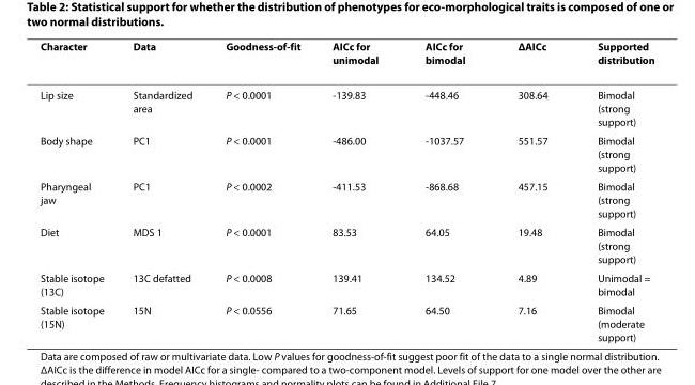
<table><thead><tr><td>Character</td><td>Data</td><td>Goodness-of-fit</td><td>AICc for unimodal</td><td>AICc for bimodal</td><td>ΔAICc</td><td>Supported distribution</td></tr></thead><tbody><tr><td>Lip size</td><td>Standardized area</td><td>P &lt; 0.0001</td><td>-139.83</td><td>-448.46</td><td>308.64</td><td>Bimodal (strong support)</td></tr><tr><td>Body shape</td><td>PC1</td><td>P &lt; 0.0001</td><td>-486.00</td><td>-1037.57</td><td>551.57</td><td>Bimodal (strong support)</td></tr><tr><td>Pharyngeal jaw</td><td>PC1</td><td>P &lt; 0.0002</td><td>-411.53</td><td>-868.68</td><td>457.15</td><td>Bimodal (strong support)</td></tr><tr><td>Diet</td><td>MDS 1</td><td>P &lt; 0.0001</td><td>83.53</td><td>64.05</td><td>19.48</td><td>Bimodal (strong support)</td></tr><tr><td>Stable isotope (13C)</td><td>13C defatted</td><td>P &lt; 0.0008</td><td>139.41</td><td>134.52</td><td>4.89</td><td>Unimodal = bimodal</td></tr><tr><td>Stable isotope (15N)</td><td>15N</td><td>P &lt; 0.0556</td><td>71.65</td><td>64.50</td><td>7.16</td><td>Bimodal (moderate support)</td></tr></tbody></table>